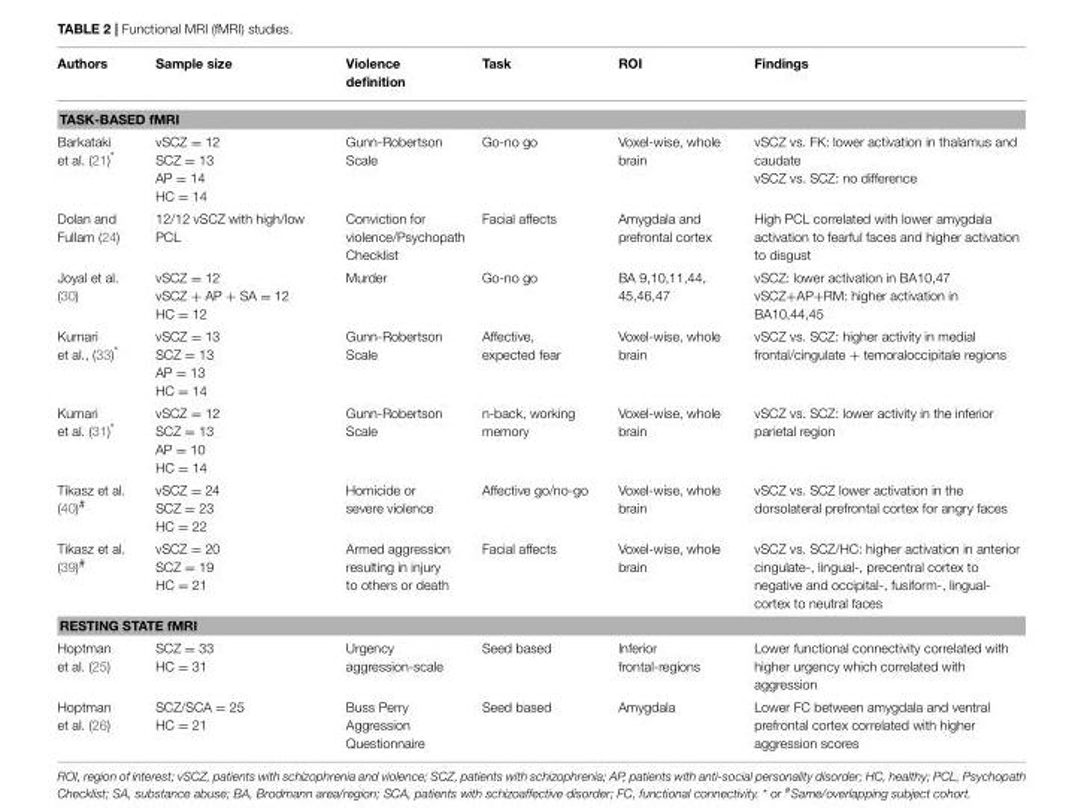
<table><thead><tr><td>Authors</td><td>Sample size</td><td>Violence definition</td><td>Task</td><td>ROI</td><td>Findings</td></tr></thead><tbody><tr><td colspan="6">TASK-BASED fMRI</td></tr><tr><td>Barkataki et al. (21)*</td><td>vSCZ = 12 SCZ = 13 AP = 14 HC = 14</td><td>Gunn-Robertson Scale</td><td>Go-no go</td><td>Voxel-wise, whole brain</td><td>vSCZ vs. FK: lower activation in thalamus and caudate vSCZ vs. SCZ: no difference</td></tr><tr><td>Dolan and Fullam (24)</td><td>12/12 vSCZ with high/low PCL</td><td>Conviction for violence/Psychopath Checklist</td><td>Facial affects</td><td>Amygdala and prefrontal cortex</td><td>High PCL correlated with lower amygdala activation to fearful faces and higher activation to disgust</td></tr><tr><td>Joyal et al. (30)</td><td>vSCZ = 12 vSCZ + AP + SA = 12 HC = 12</td><td>Murder</td><td>Go-no go</td><td>BA 9,10,11,44, 45,46,47</td><td>vSCZ: lower activation in BA10,47 vSCZ+AP+RM: higher activation in BA10,44,45</td></tr><tr><td>Kumari et al., (33)*</td><td>vSCZ = 13 SCZ = 13 AP = 13 HC = 14</td><td>Gunn-Robertson Scale</td><td>Affective, expected fear</td><td>Voxel-wise, whole brain</td><td>vSCZ vs. SCZ: higher activity in medial frontal/cingulate + temoraloccipitale regions</td></tr><tr><td>Kumari et al. (31)*</td><td>vSCZ = 12 SCZ = 13 AP = 10 HC = 14</td><td>Gunn-Robertson Scale</td><td>n-back, working memory</td><td>Voxel-wise, whole brain</td><td>vSCZ vs. SCZ: lower activity in the inferior parietal region</td></tr><tr><td>Tikasz et al. (40)<sup>#</sup></td><td>vSCZ = 24 SCZ = 23 HC = 22</td><td>Homicide or severe violence</td><td>Affective go/no-go</td><td>Voxel-wise, whole brain</td><td>vSCZ vs. SCZ lower activation in the dorsolateral prefrontal cortex for angry faces</td></tr><tr><td>Tikasz et al. (39)<sup>#</sup></td><td>vSCZ = 20 SCZ = 19 HC = 21</td><td>Armed aggression resulting in injury to others or death</td><td>Facial affects</td><td>Voxel-wise, whole brain</td><td>vSCZ vs. SCZ/HC: higher activation in anterior cingulate-, lingual-, precentral cortex to negative and occipital-, fusiform-, lingual- cortex to neutral faces</td></tr><tr><td colspan="6">RESTING STATE fMRI</td></tr><tr><td>Hoptman et al. (25)</td><td>SCZ = 33 HC = 31</td><td>Urgency aggression-scale</td><td>Seed based</td><td>Inferior frontal-regions</td><td>Lower functional connectivity correlated with higher urgency which correlated with aggression</td></tr><tr><td>Hoptman et al. (26)</td><td>SCZ/SCA = 25 HC = 21</td><td>Buss Perry Aggression Questionnaire</td><td>Seed based</td><td>Amygdala</td><td>Lower FC between amygdala and ventral prefrontal cortex correlated with higher aggression scores</td></tr></tbody></table>